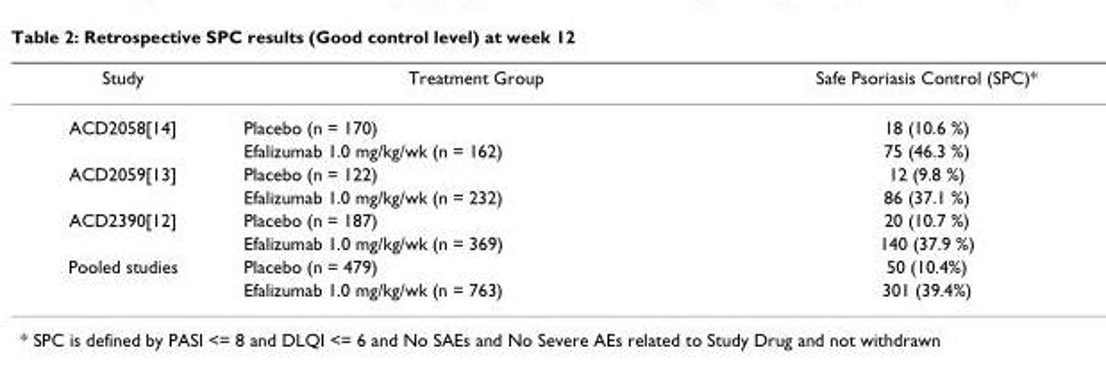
<table><thead><tr><td>Study</td><td>Treatment Group</td><td>Safe Psoriasis Control (SPC)*</td></tr></thead><tbody><tr><td rowspan="2">ACD2058[14]</td><td>Placebo (n = 170)</td><td>18 (10.6 %)</td></tr><tr><td>Efalizumab 1.0 mg/kg/wk (n = 162)</td><td>75 (46.3 %)</td></tr><tr><td rowspan="2">ACD2059[13]</td><td>Placebo (n = 122)</td><td>12 (9.8 %)</td></tr><tr><td>Efalizumab 1.0 mg/kg/wk (n = 232)</td><td>86 (37.1 %)</td></tr><tr><td rowspan="2">ACD2390[12]</td><td>Placebo (n = 187)</td><td>20 (10.7 %)</td></tr><tr><td>Efalizumab 1.0 mg/kg/wk (n = 369)</td><td>140 (37.9 %)</td></tr><tr><td rowspan="2">Pooled studies</td><td>Placebo (n = 479)</td><td>50 (10.4%)</td></tr><tr><td>Efalizumab 1.0 mg/kg/wk (n = 763)</td><td>301 (39.4%)</td></tr></tbody></table>